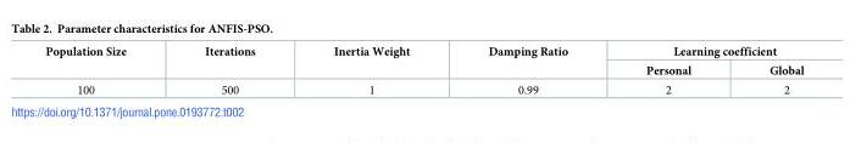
<table><thead><tr><td rowspan="2">Population Size</td><td rowspan="2">Iterations</td><td rowspan="2">Inertia Weight</td><td rowspan="2">Damping Ratio</td><td colspan="2">Learning coefficient</td></tr><tr><td>Personal</td><td>Global</td></tr></thead><tbody><tr><td>100</td><td>500</td><td>1</td><td>0.99</td><td>2</td><td>2</td></tr></tbody></table>